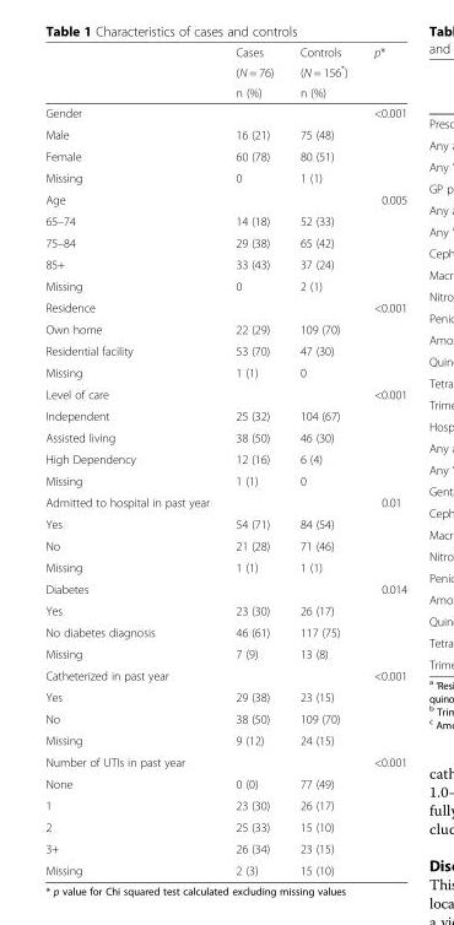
<table><thead><tr><td rowspan="3"></td><td rowspan="3">Cases (N = 76) n (%)</td><td rowspan="3">Controls (N = 156*) n (%)</td><td rowspan="3">p*</td></tr><tr></tr><tr></tr></thead><tbody><tr><td>Gender</td><td></td><td></td><td>&lt;0.001</td></tr><tr><td>Male</td><td>16 (21)</td><td>75 (48)</td><td></td></tr><tr><td>Female</td><td>60 (78)</td><td>80 (51)</td><td></td></tr><tr><td>Missing</td><td>0</td><td>1 (1)</td><td></td></tr><tr><td>Age</td><td></td><td></td><td>0.005</td></tr><tr><td>65–74</td><td>14 (18)</td><td>52 (33)</td><td></td></tr><tr><td>75–84</td><td>29 (38)</td><td>65 (42)</td><td></td></tr><tr><td>85+</td><td>33 (43)</td><td>37 (24)</td><td></td></tr><tr><td>Missing</td><td>0</td><td>2 (1)</td><td></td></tr><tr><td>Residence</td><td></td><td></td><td>&lt;0.001</td></tr><tr><td>Own home</td><td>22 (29)</td><td>109 (70)</td><td></td></tr><tr><td>Residential facility</td><td>53 (70)</td><td>47 (30)</td><td></td></tr><tr><td>Missing</td><td>1 (1)</td><td>0</td><td></td></tr><tr><td>Level of care</td><td></td><td></td><td>&lt;0.001</td></tr><tr><td>Independent</td><td>25 (32)</td><td>104 (67)</td><td></td></tr><tr><td>Assisted living</td><td>38 (50)</td><td>46 (30)</td><td></td></tr><tr><td>High Dependency</td><td>12 (16)</td><td>6 (4)</td><td></td></tr><tr><td>Missing</td><td>1 (1)</td><td>0</td><td></td></tr><tr><td>Admitted to hospital in past year</td><td></td><td></td><td>0.01</td></tr><tr><td>Yes</td><td>54 (71)</td><td>84 (54)</td><td></td></tr><tr><td>No</td><td>21 (28)</td><td>71 (46)</td><td></td></tr><tr><td>Missing</td><td>1 (1)</td><td>1 (1)</td><td></td></tr><tr><td>Diabetes</td><td></td><td></td><td>0.014</td></tr><tr><td>Yes</td><td>23 (30)</td><td>26 (17)</td><td></td></tr><tr><td>No diabetes diagnosis</td><td>46 (61)</td><td>117 (75)</td><td></td></tr><tr><td>Missing</td><td>7 (9)</td><td>13 (8)</td><td></td></tr><tr><td>Catheterized in past year</td><td></td><td></td><td>&lt;0.001</td></tr><tr><td>Yes</td><td>29 (38)</td><td>23 (15)</td><td></td></tr><tr><td>No</td><td>38 (50)</td><td>109 (70)</td><td></td></tr><tr><td>Missing</td><td>9 (12)</td><td>24 (15)</td><td></td></tr><tr><td>Number of UTIs in past year</td><td></td><td></td><td>&lt;0.001</td></tr><tr><td>None</td><td>0 (0)</td><td>77 (49)</td><td></td></tr><tr><td>1</td><td>23 (30)</td><td>26 (17)</td><td></td></tr><tr><td>2</td><td>25 (33)</td><td>15 (10)</td><td></td></tr><tr><td>3+</td><td>26 (34)</td><td>23 (15)</td><td></td></tr><tr><td>Missing</td><td>2 (3)</td><td>15 (10)</td><td></td></tr></tbody></table>